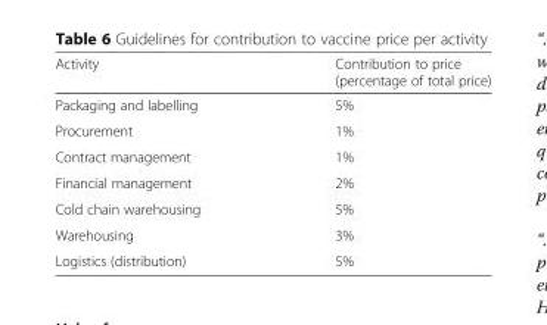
<table><thead><tr><td>Activity</td><td>Contribution to price (percentage of total price)</td></tr></thead><tbody><tr><td>Packaging and labelling</td><td>5%</td></tr><tr><td>Procurement</td><td>1%</td></tr><tr><td>Contract management</td><td>1%</td></tr><tr><td>Financial management</td><td>2%</td></tr><tr><td>Cold chain warehousing</td><td>5%</td></tr><tr><td>Warehousing</td><td>3%</td></tr><tr><td>Logistics (distribution)</td><td>5%</td></tr></tbody></table>